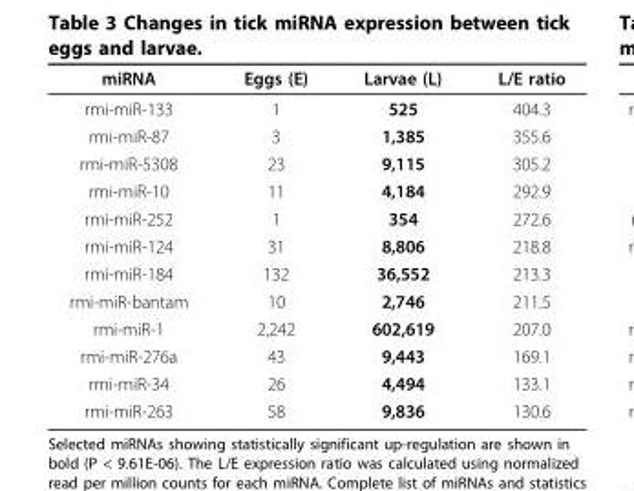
<table><thead><tr><td>miRNA</td><td>Eggs (E)</td><td>Larvae (L)</td><td>L/E ratio</td></tr></thead><tbody><tr><td>rmi-miR-133</td><td>1</td><td>525</td><td>404.3</td></tr><tr><td>rmi-miR-87</td><td>3</td><td>1,385</td><td>355.6</td></tr><tr><td>rmi-miR-5308</td><td>23</td><td>9,115</td><td>305.2</td></tr><tr><td>rmi-miR-10</td><td>11</td><td>4,184</td><td>292.9</td></tr><tr><td>rmi-miR-252</td><td>1</td><td>354</td><td>272.6</td></tr><tr><td>rmi-miR-124</td><td>31</td><td>8,806</td><td>218.8</td></tr><tr><td>rmi-miR-184</td><td>132</td><td>36,552</td><td>213.3</td></tr><tr><td>rmi-miR-bantam</td><td>10</td><td>2,746</td><td>211.5</td></tr><tr><td>rmi-miR-1</td><td>2,242</td><td>602,619</td><td>207.0</td></tr><tr><td>rmi-miR-276a</td><td>43</td><td>9,443</td><td>169.1</td></tr><tr><td>rmi-miR-34</td><td>26</td><td>4,494</td><td>133.1</td></tr><tr><td>rmi-miR-263</td><td>58</td><td>9,836</td><td>130.6</td></tr></tbody></table>